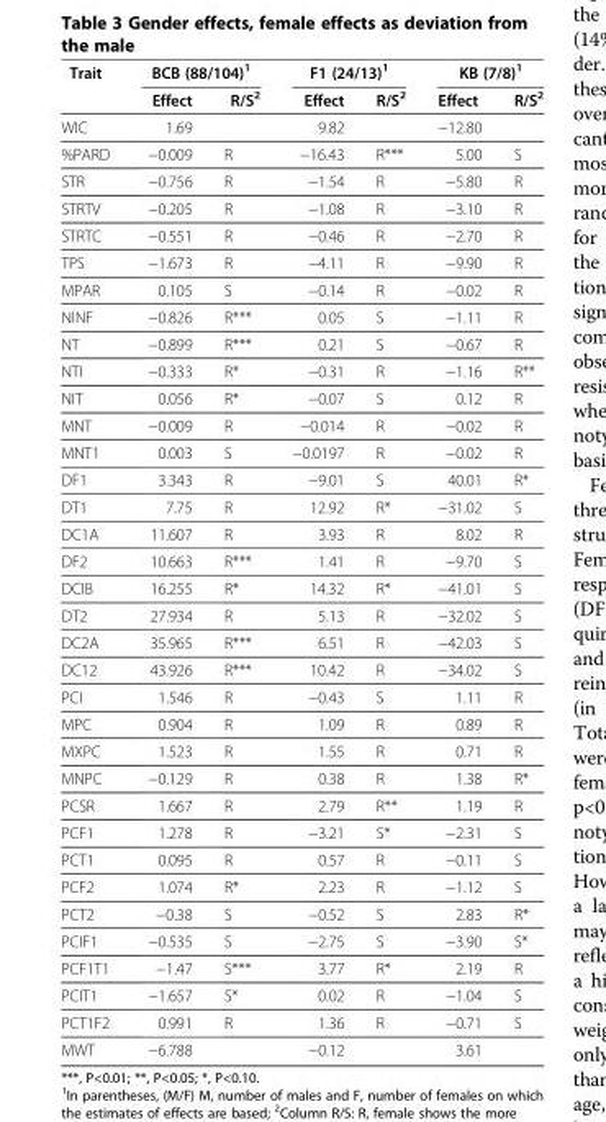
<table><thead><tr><td rowspan="2">Trait</td><td colspan="2">BCB (88/104)<sup>1</sup></td><td colspan="2">F1 (24/13)<sup>1</sup></td><td colspan="2">KB (7/8)<sup>1</sup></td></tr><tr><td>Effect</td><td>R/S<sup>2</sup></td><td>Effect</td><td>R/S<sup>2</sup></td><td>Effect</td><td>R/S<sup>2</sup></td></tr></thead><tbody><tr><td>WIC</td><td>1.69</td><td></td><td>9.82</td><td></td><td>−12.80</td><td></td></tr><tr><td>%PARD</td><td>−0.009</td><td>R</td><td>−16.43</td><td>R***</td><td>5.00</td><td>S</td></tr><tr><td>STR</td><td>−0.756</td><td>R</td><td>−1.54</td><td>R</td><td>−5.80</td><td>R</td></tr><tr><td>STRTV</td><td>−0.205</td><td>R</td><td>−1.08</td><td>R</td><td>−3.10</td><td>R</td></tr><tr><td>STRTC</td><td>−0.551</td><td>R</td><td>−0.46</td><td>R</td><td>−2.70</td><td>R</td></tr><tr><td>TPS</td><td>−1.673</td><td>R</td><td>−4.11</td><td>R</td><td>−9.90</td><td>R</td></tr><tr><td>MPAR</td><td>0.105</td><td>S</td><td>−0.14</td><td>R</td><td>−0.02</td><td>R</td></tr><tr><td>NINF</td><td>−0.826</td><td>R***</td><td>0.05</td><td>S</td><td>−1.11</td><td>R</td></tr><tr><td>NT</td><td>−0.899</td><td>R***</td><td>0.21</td><td>S</td><td>−0.67</td><td>R</td></tr><tr><td>NTI</td><td>−0.333</td><td>R*</td><td>−0.31</td><td>R</td><td>−1.16</td><td>R**</td></tr><tr><td>NIT</td><td>0.056</td><td>R*</td><td>−0.07</td><td>S</td><td>0.12</td><td>R</td></tr><tr><td>MNT</td><td>−0.009</td><td>R</td><td>−0.014</td><td>R</td><td>−0.02</td><td>R</td></tr><tr><td>MNT1</td><td>0.003</td><td>S</td><td>−0.0197</td><td>R</td><td>−0.02</td><td>R</td></tr><tr><td>DF1</td><td>3.343</td><td>R</td><td>−9.01</td><td>S</td><td>40.01</td><td>R*</td></tr><tr><td>DT1</td><td>7.75</td><td>R</td><td>12.92</td><td>R*</td><td>−31.02</td><td>S</td></tr><tr><td>DC1A</td><td>11.607</td><td>R</td><td>3.93</td><td>R</td><td>8.02</td><td>R</td></tr><tr><td>DF2</td><td>10.663</td><td>R***</td><td>1.41</td><td>R</td><td>−9.70</td><td>S</td></tr><tr><td>DCIB</td><td>16.255</td><td>R*</td><td>14.32</td><td>R*</td><td>−41.01</td><td>S</td></tr><tr><td>DT2</td><td>27.934</td><td>R</td><td>5.13</td><td>R</td><td>−32.02</td><td>S</td></tr><tr><td>DC2A</td><td>35.965</td><td>R***</td><td>6.51</td><td>R</td><td>−42.03</td><td>S</td></tr><tr><td>DC12</td><td>43.926</td><td>R***</td><td>10.42</td><td>R</td><td>−34.02</td><td>S</td></tr><tr><td>PCI</td><td>1.546</td><td>R</td><td>−0.43</td><td>S</td><td>1.11</td><td>R</td></tr><tr><td>MPC</td><td>0.904</td><td>R</td><td>1.09</td><td>R</td><td>0.89</td><td>R</td></tr><tr><td>MXPC</td><td>1.523</td><td>R</td><td>1.55</td><td>R</td><td>0.71</td><td>R</td></tr><tr><td>MNPC</td><td>−0.129</td><td>R</td><td>0.38</td><td>R</td><td>1.38</td><td>R*</td></tr><tr><td>PCSR</td><td>1.667</td><td>R</td><td>2.79</td><td>R**</td><td>1.19</td><td>R</td></tr><tr><td>PCF1</td><td>1.278</td><td>R</td><td>−3.21</td><td>S*</td><td>−2.31</td><td>S</td></tr><tr><td>PCT1</td><td>0.095</td><td>R</td><td>0.57</td><td>R</td><td>−0.11</td><td>S</td></tr><tr><td>PCF2</td><td>1.074</td><td>R*</td><td>2.23</td><td>R</td><td>−1.12</td><td>S</td></tr><tr><td>PCT2</td><td>−0.38</td><td>S</td><td>−0.52</td><td>S</td><td>2.83</td><td>R*</td></tr><tr><td>PCIF1</td><td>−0.535</td><td>S</td><td>−2.75</td><td>S</td><td>−3.90</td><td>S*</td></tr><tr><td>PCF1T1</td><td>−1.47</td><td>S***</td><td>3.77</td><td>R*</td><td>2.19</td><td>R</td></tr><tr><td>PCIT1</td><td>−1.657</td><td>S*</td><td>0.02</td><td>R</td><td>−1.04</td><td>S</td></tr><tr><td>PCT1F2</td><td>0.991</td><td>R</td><td>1.36</td><td>R</td><td>−0.71</td><td>S</td></tr><tr><td>MWT</td><td>−6.788</td><td></td><td>−0.12</td><td></td><td>3.61</td><td></td></tr></tbody></table>